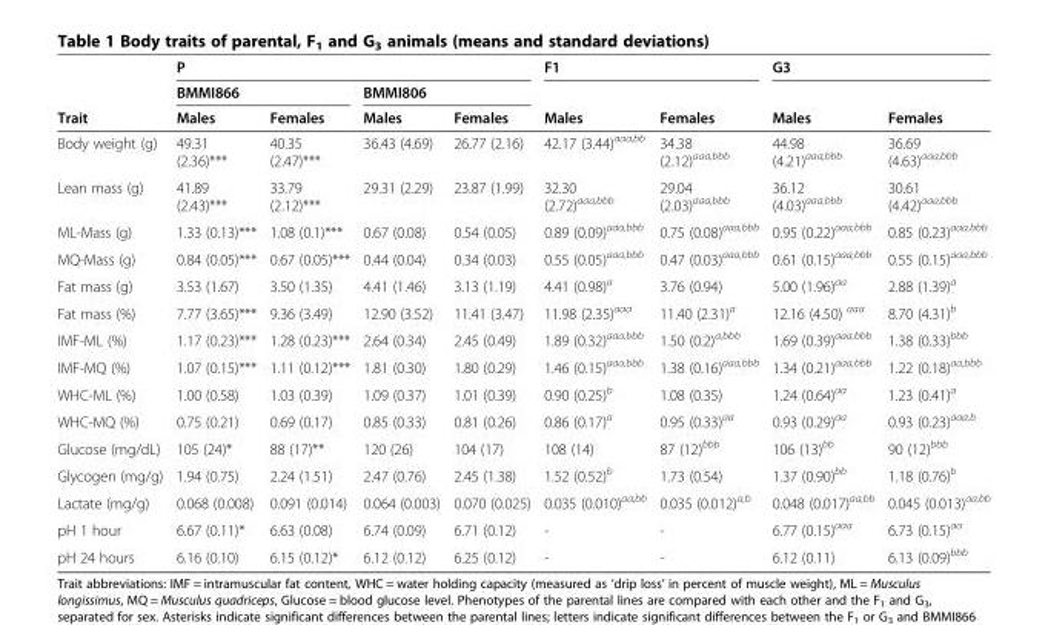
<table><thead><tr><td rowspan="3">Trait</td><td colspan="4">P</td><td colspan="2">F1</td><td colspan="2">G3</td></tr><tr><td colspan="2">BMMI866</td><td colspan="2">BMMI806</td><td rowspan="2">Males</td><td rowspan="2">Females</td><td rowspan="2">Males</td><td rowspan="2">Females</td></tr><tr><td>Males</td><td>Females</td><td>Males</td><td>Females</td></tr></thead><tbody><tr><td>Body weight (g)</td><td>49.31 (2.36)***</td><td>40.35 (2.47)***</td><td>36.43 (4.69)</td><td>26.77 (2.16)</td><td>42.17 (3.44)<sup>aaa,bb</sup></td><td>34.38 (2.12)<sup>aaa,bbb</sup></td><td>44.98 (4.21)<sup>aaa,bbb</sup></td><td>36.69 (4.63)<sup>aaa,bbb</sup></td></tr><tr><td>Lean mass (g)</td><td>41.89 (2.43)***</td><td>33.79 (2.12)***</td><td>29.31 (2.29)</td><td>23.87 (1.99)</td><td>32.30 (2.72)<sup>aaa,bbb</sup></td><td>29.04 (2.03)<sup>aaa,bbb</sup></td><td>36.12 (4.03)<sup>aaa,bbb</sup></td><td>30.61 (4.42)<sup>aaa,bbb</sup></td></tr><tr><td>ML-Mass (g)</td><td>1.33 (0.13)***</td><td>1.08 (0.1)***</td><td>0.67 (0.08)</td><td>0.54 (0.05)</td><td>0.89 (0.09)<sup>aaa,bbb</sup></td><td>0.75 (0.08)<sup>aaa,bbb</sup></td><td>0.95 (0.22)<sup>aaa,bbb</sup></td><td>0.85 (0.23)<sup>aaa,bbb</sup></td></tr><tr><td>MQ-Mass (g)</td><td>0.84 (0.05)***</td><td>0.67 (0.05)***</td><td>0.44 (0.04)</td><td>0.34 (0.03)</td><td>0.55 (0.05)<sup>aaa,bbb</sup></td><td>0.47 (0.03)<sup>aaa,bbb</sup></td><td>0.61 (0.15)<sup>aaa,bbb</sup></td><td>0.55 (0.15)<sup>aaa,bbb</sup></td></tr><tr><td>Fat mass (g)</td><td>3.53 (1.67)</td><td>3.50 (1.35)</td><td>4.41 (1.46)</td><td>3.13 (1.19)</td><td>4.41 (0.98)<sup>a</sup></td><td>3.76 (0.94)</td><td>5.00 (1.96)<sup>aa</sup></td><td>2.88 (1.39)<sup>a</sup></td></tr><tr><td>Fat mass (%)</td><td>7.77 (3.65)***</td><td>9.36 (3.49)</td><td>12.90 (3.52)</td><td>11.41 (3.47)</td><td>11.98 (2.35)<sup>aaa</sup></td><td>11.40 (2.31)<sup>a</sup></td><td>12.16 (4.50) <sup>aaa</sup></td><td>8.70 (4.31)<sup>b</sup></td></tr><tr><td>IMF-ML (%)</td><td>1.17 (0.23)***</td><td>1.28 (0.23)***</td><td>2.64 (0.34)</td><td>2.45 (0.49)</td><td>1.89 (0.32)<sup>aaa,bbb</sup></td><td>1.50 (0.2)<sup>a,bbb</sup></td><td>1.69 (0.39)<sup>aaa,bbb</sup></td><td>1.38 (0.33)<sup>bbb</sup></td></tr><tr><td>IMF-MQ (%)</td><td>1.07 (0.15)***</td><td>1.11 (0.12)***</td><td>1.81 (0.30)</td><td>1.80 (0.29)</td><td>1.46 (0.15)<sup>aaa,bbb</sup></td><td>1.38 (0.16)<sup>aaa,bbb</sup></td><td>1.34 (0.21)<sup>aaa,bbb</sup></td><td>1.22 (0.18)<sup>aa,bbb</sup></td></tr><tr><td>WHC-ML (%)</td><td>1.00 (0.58)</td><td>1.03 (0.39)</td><td>1.09 (0.37)</td><td>1.01 (0.39)</td><td>0.90 (0.25)<sup>b</sup></td><td>1.08 (0.35)</td><td>1.24 (0.64)<sup>aa</sup></td><td>1.23 (0.41)<sup>a</sup></td></tr><tr><td>WHC-MQ (%)</td><td>0.75 (0.21)</td><td>0.69 (0.17)</td><td>0.85 (0.33)</td><td>0.81 (0.26)</td><td>0.86 (0.17)<sup>a</sup></td><td>0.95 (0.33)<sup>aa</sup></td><td>0.93 (0.29)<sup>aa</sup></td><td>0.93 (0.23)<sup>aaa,b</sup></td></tr><tr><td>Glucose (mg/dL)</td><td>105 (24)*</td><td>88 (17)**</td><td>120 (26)</td><td>104 (17)</td><td>108 (14)</td><td>87 (12)<sup>bbb</sup></td><td>106 (13)<sup>bb</sup></td><td>90 (12)<sup>bbb</sup></td></tr><tr><td>Glycogen (mg/g)</td><td>1.94 (0.75)</td><td>2.24 (1.51)</td><td>2.47 (0.76)</td><td>2.45 (1.38)</td><td>1.52 (0.52)<sup>b</sup></td><td>1.73 (0.54)</td><td>1.37 (0.90)<sup>bb</sup></td><td>1.18 (0.76)<sup>b</sup></td></tr><tr><td>Lactate (mg/g)</td><td>0.068 (0.008)</td><td>0.091 (0.014)</td><td>0.064 (0.003)</td><td>0.070 (0.025)</td><td>0.035 (0.010)<sup>aa,bb</sup></td><td>0.035 (0.012)<sup>a,b</sup></td><td>0.048 (0.017)<sup>aa,bb</sup></td><td>0.045 (0.013)<sup>aa,bb</sup></td></tr><tr><td>pH 1 hour</td><td>6.67 (0.11)*</td><td>6.63 (0.08)</td><td>6.74 (0.09)</td><td>6.71 (0.12)</td><td>-</td><td>-</td><td>6.77 (0.15)<sup>aaa</sup></td><td>6.73 (0.15)<sup>aa</sup></td></tr><tr><td>pH 24 hours</td><td>6.16 (0.10)</td><td>6.15 (0.12)*</td><td>6.12 (0.12)</td><td>6.25 (0.12)</td><td>-</td><td>-</td><td>6.12 (0.11)</td><td>6.13 (0.09)<sup>bbb</sup></td></tr></tbody></table>